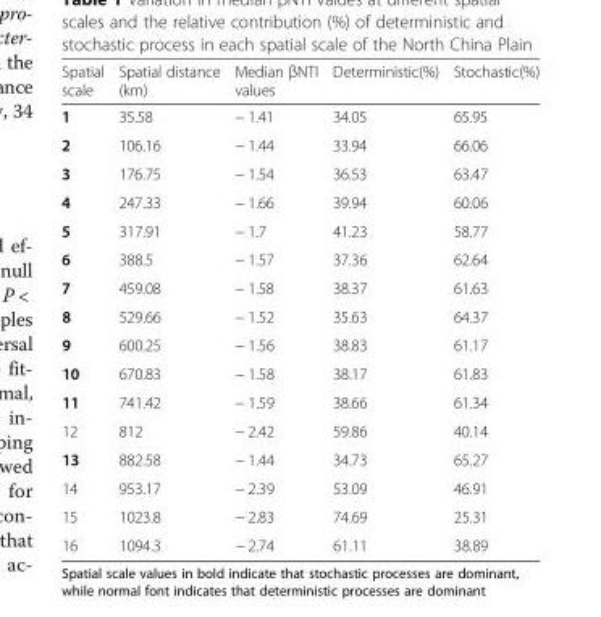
<table><thead><tr><td>Spatial scale</td><td>Spatial distance (km)</td><td>Median βNTI values</td><td>Deterministic(%)</td><td>Stochastic(%)</td></tr></thead><tbody><tr><td>1</td><td>35.58</td><td>− 1.41</td><td>34.05</td><td>65.95</td></tr><tr><td>2</td><td>106.16</td><td>− 1.44</td><td>33.94</td><td>66.06</td></tr><tr><td>3</td><td>176.75</td><td>− 1.54</td><td>36.53</td><td>63.47</td></tr><tr><td>4</td><td>247.33</td><td>− 1.66</td><td>39.94</td><td>60.06</td></tr><tr><td>5</td><td>317.91</td><td>− 1.7</td><td>41.23</td><td>58.77</td></tr><tr><td>6</td><td>388.5</td><td>− 1.57</td><td>37.36</td><td>62.64</td></tr><tr><td>7</td><td>459.08</td><td>− 1.58</td><td>38.37</td><td>61.63</td></tr><tr><td>8</td><td>529.66</td><td>− 1.52</td><td>35.63</td><td>64.37</td></tr><tr><td>9</td><td>600.25</td><td>− 1.56</td><td>38.83</td><td>61.17</td></tr><tr><td>10</td><td>670.83</td><td>− 1.58</td><td>38.17</td><td>61.83</td></tr><tr><td>11</td><td>741.42</td><td>− 1.59</td><td>38.66</td><td>61.34</td></tr><tr><td>12</td><td>812</td><td>− 2.42</td><td>59.86</td><td>40.14</td></tr><tr><td>13</td><td>882.58</td><td>− 1.44</td><td>34.73</td><td>65.27</td></tr><tr><td>14</td><td>953.17</td><td>− 2.39</td><td>53.09</td><td>46.91</td></tr><tr><td>15</td><td>1023.8</td><td>− 2.83</td><td>74.69</td><td>25.31</td></tr><tr><td>16</td><td>1094.3</td><td>− 2.74</td><td>61.11</td><td>38.89</td></tr></tbody></table>